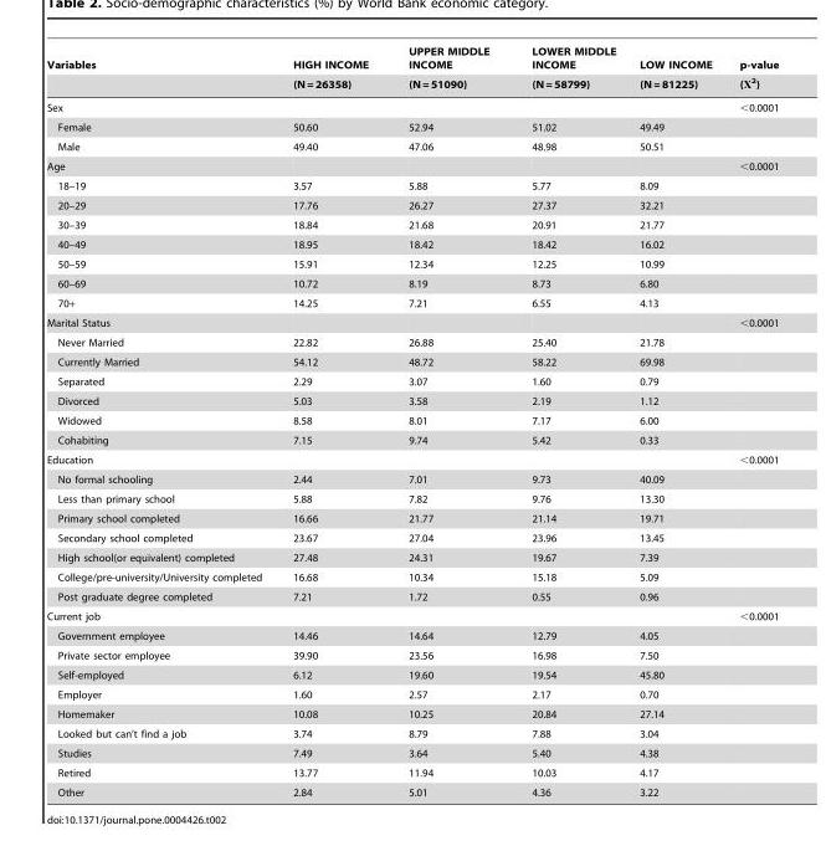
<table><thead><tr><td rowspan="2">Variables</td><td rowspan="2">HIGH INCOME (N = 26358)</td><td rowspan="2">UPPER MIDDLE INCOME (N = 51090)</td><td rowspan="2">LOWER MIDDLE INCOME (N = 58799)</td><td rowspan="2">LOW INCOME (N = 81225)</td><td rowspan="2">p-value (X2)</td></tr><tr></tr></thead><tbody><tr><td>Sex</td><td></td><td></td><td></td><td></td><td>&lt;0.0001</td></tr><tr><td>Female</td><td>50.60</td><td>52.94</td><td>51.02</td><td>49.49</td><td></td></tr><tr><td>Male</td><td>49.40</td><td>47.06</td><td>48.98</td><td>50.51</td><td></td></tr><tr><td>Age</td><td></td><td></td><td></td><td></td><td>&lt;0.0001</td></tr><tr><td>18–19</td><td>3.57</td><td>5.88</td><td>5.77</td><td>8.09</td><td></td></tr><tr><td>20–29</td><td>17.76</td><td>26.27</td><td>27.37</td><td>32.21</td><td></td></tr><tr><td>30–39</td><td>18.84</td><td>21.68</td><td>20.91</td><td>21.77</td><td></td></tr><tr><td>40–49</td><td>18.95</td><td>18.42</td><td>18.42</td><td>16.02</td><td></td></tr><tr><td>50–59</td><td>15.91</td><td>12.34</td><td>12.25</td><td>10.99</td><td></td></tr><tr><td>60–69</td><td>10.72</td><td>8.19</td><td>8.73</td><td>6.80</td><td></td></tr><tr><td>70+</td><td>14.25</td><td>7.21</td><td>6.55</td><td>4.13</td><td></td></tr><tr><td>Marital Status</td><td></td><td></td><td></td><td></td><td>&lt;0.0001</td></tr><tr><td>Never Married</td><td>22.82</td><td>26.88</td><td>25.40</td><td>21.78</td><td></td></tr><tr><td>Currently Married</td><td>54.12</td><td>48.72</td><td>58.22</td><td>69.98</td><td></td></tr><tr><td>Separated</td><td>2.29</td><td>3.07</td><td>1.60</td><td>0.79</td><td></td></tr><tr><td>Divorced</td><td>5.03</td><td>3.58</td><td>2.19</td><td>1.12</td><td></td></tr><tr><td>Widowed</td><td>8.58</td><td>8.01</td><td>7.17</td><td>6.00</td><td></td></tr><tr><td>Cohabiting</td><td>7.15</td><td>9.74</td><td>5.42</td><td>0.33</td><td></td></tr><tr><td>Education</td><td></td><td></td><td></td><td></td><td>&lt;0.0001</td></tr><tr><td>No formal schooling</td><td>2.44</td><td>7.01</td><td>9.73</td><td>40.09</td><td></td></tr><tr><td>Less than primary school</td><td>5.88</td><td>7.82</td><td>9.76</td><td>13.30</td><td></td></tr><tr><td>Primary school completed</td><td>16.66</td><td>21.77</td><td>21.14</td><td>19.71</td><td></td></tr><tr><td>Secondary school completed</td><td>23.67</td><td>27.04</td><td>23.96</td><td>13.45</td><td></td></tr><tr><td>High school(or equivalent) completed</td><td>27.48</td><td>24.31</td><td>19.67</td><td>7.39</td><td></td></tr><tr><td>College/pre-university/University completed</td><td>16.68</td><td>10.34</td><td>15.18</td><td>5.09</td><td></td></tr><tr><td>Post graduate degree completed</td><td>7.21</td><td>1.72</td><td>0.55</td><td>0.96</td><td></td></tr><tr><td>Current job</td><td></td><td></td><td></td><td></td><td>&lt;0.0001</td></tr><tr><td>Government employee</td><td>14.46</td><td>14.64</td><td>12.79</td><td>4.05</td><td></td></tr><tr><td>Private sector employee</td><td>39.90</td><td>23.56</td><td>16.98</td><td>7.50</td><td></td></tr><tr><td>Self-employed</td><td>6.12</td><td>19.60</td><td>19.54</td><td>45.80</td><td></td></tr><tr><td>Employer</td><td>1.60</td><td>2.57</td><td>2.17</td><td>0.70</td><td></td></tr><tr><td>Homemaker</td><td>10.08</td><td>10.25</td><td>20.84</td><td>27.14</td><td></td></tr><tr><td>Looked but can’t find a job</td><td>3.74</td><td>8.79</td><td>7.88</td><td>3.04</td><td></td></tr><tr><td>Studies</td><td>7.49</td><td>3.64</td><td>5.40</td><td>4.38</td><td></td></tr><tr><td>Retired</td><td>13.77</td><td>11.94</td><td>10.03</td><td>4.17</td><td></td></tr><tr><td>Other</td><td>2.84</td><td>5.01</td><td>4.36</td><td>3.22</td><td></td></tr></tbody></table>